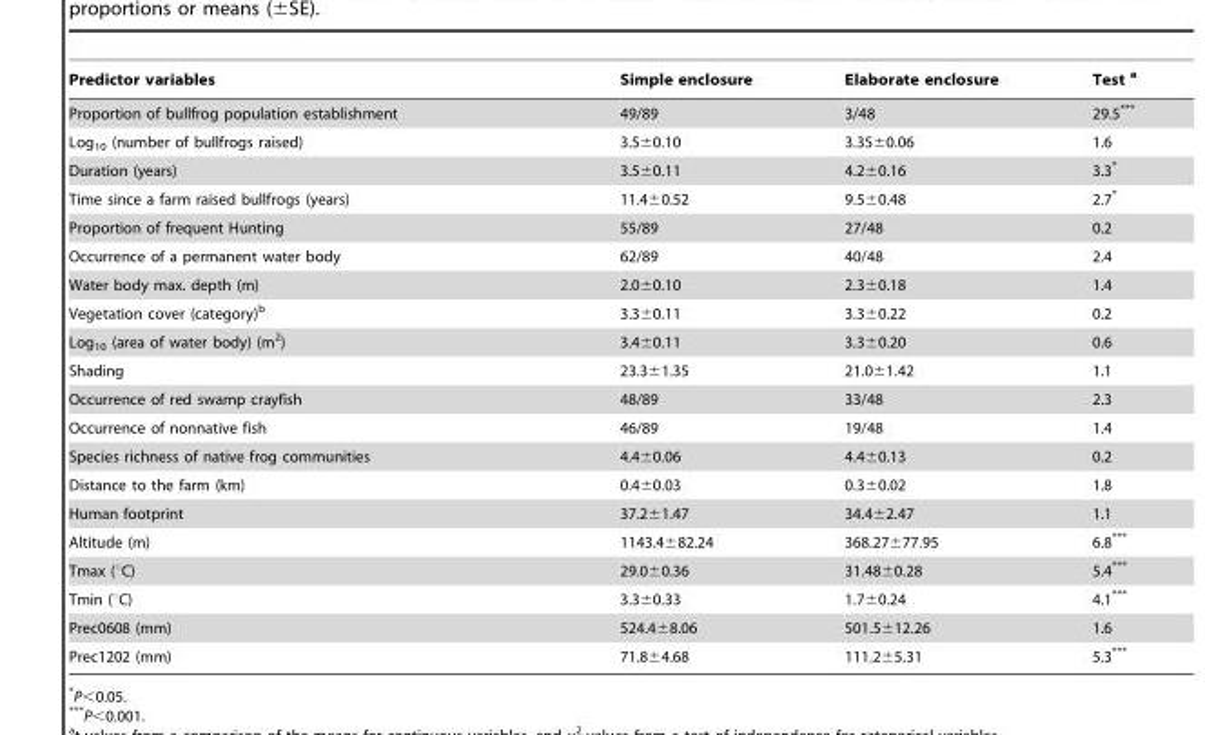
<table><thead><tr><td>Predictor variables</td><td>Simple enclosure</td><td>Elaborate enclosure</td><td>Test a</td></tr></thead><tbody><tr><td>Proportion of bullfrog population establishment</td><td>49/89</td><td>3/48</td><td>29.5***</td></tr><tr><td>Log<sub>10</sub> (number of bullfrogs raised)</td><td>3.5±0.10</td><td>3.35±0.06</td><td>1.6</td></tr><tr><td>Duration (years)</td><td>3.5±0.11</td><td>4.2±0.16</td><td>3.3*</td></tr><tr><td>Time since a farm raised bullfrogs (years)</td><td>11.4±0.52</td><td>9.5±0.48</td><td>2.7*</td></tr><tr><td>Proportion of frequent Hunting</td><td>55/89</td><td>27/48</td><td>0.2</td></tr><tr><td>Occurrence of a permanent water body</td><td>62/89</td><td>40/48</td><td>2.4</td></tr><tr><td>Water body max. depth (m)</td><td>2.0±0.10</td><td>2.3±0.18</td><td>1.4</td></tr><tr><td>Vegetation cover (category)<sup>b</sup></td><td>3.3±0.11</td><td>3.3±0.22</td><td>0.2</td></tr><tr><td>Log<sub>10</sub> (area of water body) (m<sup>2</sup>)</td><td>3.4±0.11</td><td>3.3±0.20</td><td>0.6</td></tr><tr><td>Shading</td><td>23.3±1.35</td><td>21.0±1.42</td><td>1.1</td></tr><tr><td>Occurrence of red swamp crayfish</td><td>48/89</td><td>33/48</td><td>2.3</td></tr><tr><td>Occurrence of nonnative fish</td><td>46/89</td><td>19/48</td><td>1.4</td></tr><tr><td>Species richness of native frog communities</td><td>4.4±0.06</td><td>4.4±0.13</td><td>0.2</td></tr><tr><td>Distance to the farm (km)</td><td>0.4±0.03</td><td>0.3±0.02</td><td>1.8</td></tr><tr><td>Human footprint</td><td>37.2±1.47</td><td>34.4±2.47</td><td>1.1</td></tr><tr><td>Altitude (m)</td><td>1143.4±82.24</td><td>368.27±77.95</td><td>6.8***</td></tr><tr><td>Tmax (°C)</td><td>29.0±0.36</td><td>31.48±0.28</td><td>5.4***</td></tr><tr><td>Tmin (°C)</td><td>3.3±0.33</td><td>1.7±0.24</td><td>4.1***</td></tr><tr><td>Prec0608 (mm)</td><td>524.4±8.06</td><td>501.5±12.26</td><td>1.6</td></tr><tr><td>Prec1202 (mm)</td><td>71.8±4.68</td><td>111.2±5.31</td><td>5.3***</td></tr></tbody></table>